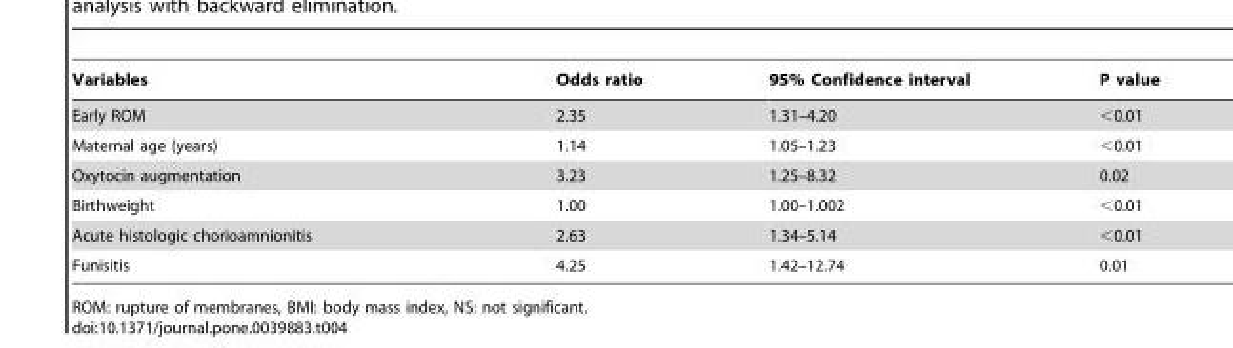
<table><thead><tr><td>Variables</td><td>Odds ratio</td><td>95% Confidence interval</td><td>P value</td></tr></thead><tbody><tr><td>Early ROM</td><td>2.35</td><td>1.31–4.20</td><td>&lt;0.01</td></tr><tr><td>Maternal age (years)</td><td>1.14</td><td>1.05–1.23</td><td>&lt;0.01</td></tr><tr><td>Oxytocin augmentation</td><td>3.23</td><td>1.25–8.32</td><td>0.02</td></tr><tr><td>Birthweight</td><td>1.00</td><td>1.00–1.002</td><td>&lt;0.01</td></tr><tr><td>Acute histologic chorioamnionitis</td><td>2.63</td><td>1.34–5.14</td><td>&lt;0.01</td></tr><tr><td>Funisitis</td><td>4.25</td><td>1.42–12.74</td><td>0.01</td></tr></tbody></table>